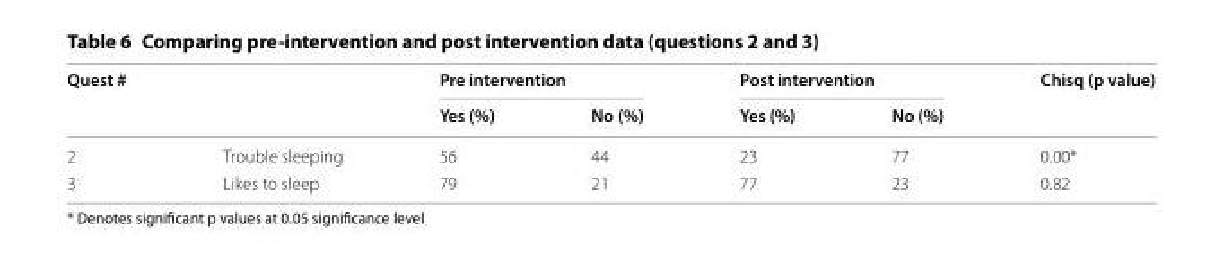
<table><thead><tr><td rowspan="2">Quest #</td><td rowspan="2"></td><td colspan="2">Pre intervention</td><td colspan="2">Post intervention</td><td rowspan="2">Chisq (p value)</td></tr><tr><td>Yes (%)</td><td>No (%)</td><td>Yes (%)</td><td>No (%)</td></tr></thead><tbody><tr><td>2</td><td>Trouble sleeping</td><td>56</td><td>44</td><td>23</td><td>77</td><td>0.00*</td></tr><tr><td>3</td><td>Likes to sleep</td><td>79</td><td>21</td><td>77</td><td>23</td><td>0.82</td></tr></tbody></table>